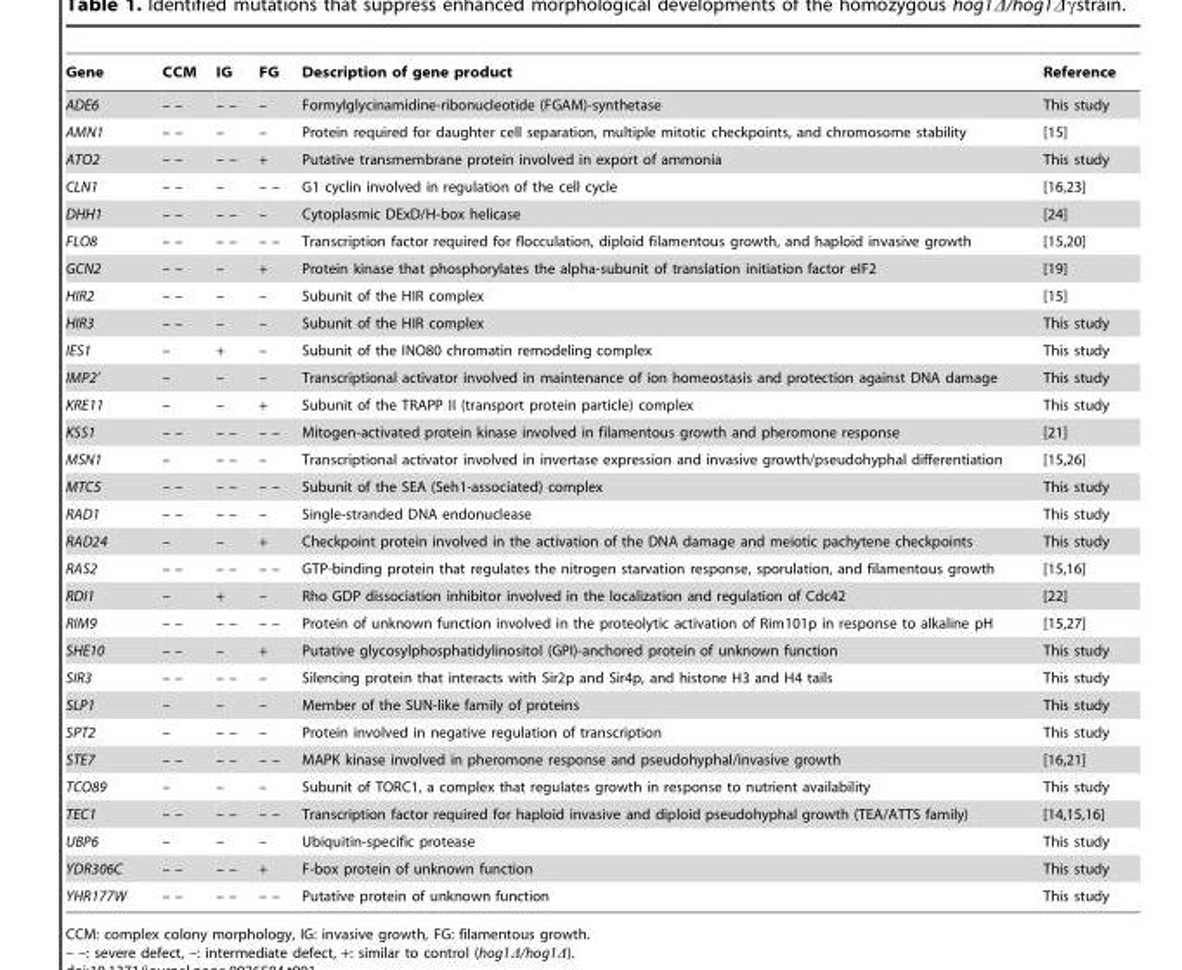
<table><thead><tr><td>Gene</td><td>CCM</td><td>IG</td><td>FG</td><td>Description of gene product</td><td>Reference</td></tr></thead><tbody><tr><td>ADE6</td><td>– –</td><td>– –</td><td>–</td><td>Formylglycinamidine-ribonucleotide (FGAM)-synthetase</td><td>This study</td></tr><tr><td>AMN1</td><td>– –</td><td>–</td><td>–</td><td>Protein required for daughter cell separation, multiple mitotic checkpoints, and chromosome stability</td><td>[15]</td></tr><tr><td>ATO2</td><td>– –</td><td>– –</td><td>+</td><td>Putative transmembrane protein involved in export of ammonia</td><td>This study</td></tr><tr><td>CLN1</td><td>– –</td><td>–</td><td>– –</td><td>G1 cyclin involved in regulation of the cell cycle</td><td>[16,23]</td></tr><tr><td>DHH1</td><td>– –</td><td>– –</td><td>–</td><td>Cytoplasmic DExD/H-box helicase</td><td>[24]</td></tr><tr><td>FLO8</td><td>– –</td><td>– –</td><td>– –</td><td>Transcription factor required for flocculation, diploid filamentous growth, and haploid invasive growth</td><td>[15,20]</td></tr><tr><td>GCN2</td><td>– –</td><td>–</td><td>+</td><td>Protein kinase that phosphorylates the alpha-subunit of translation initiation factor eIF2</td><td>[19]</td></tr><tr><td>HIR2</td><td>– –</td><td>–</td><td>–</td><td>Subunit of the HIR complex</td><td>[15]</td></tr><tr><td>HIR3</td><td>– –</td><td>–</td><td>–</td><td>Subunit of the HIR complex</td><td>This study</td></tr><tr><td>IES1</td><td>–</td><td>+</td><td>–</td><td>Subunit of the INO80 chromatin remodeling complex</td><td>This study</td></tr><tr><td>IMP2′</td><td>–</td><td>–</td><td>–</td><td>Transcriptional activator involved in maintenance of ion homeostasis and protection against DNA damage</td><td>This study</td></tr><tr><td>KRE11</td><td>–</td><td>–</td><td>+</td><td>Subunit of the TRAPP II (transport protein particle) complex</td><td>This study</td></tr><tr><td>KSS1</td><td>– –</td><td>– –</td><td>– –</td><td>Mitogen-activated protein kinase involved in filamentous growth and pheromone response</td><td>[21]</td></tr><tr><td>MSN1</td><td>–</td><td>– –</td><td>–</td><td>Transcriptional activator involved in invertase expression and invasive growth/pseudohyphal differentiation</td><td>[15,26]</td></tr><tr><td>MTC5</td><td>– –</td><td>– –</td><td>– –</td><td>Subunit of the SEA (Seh1-associated) complex</td><td>This study</td></tr><tr><td>RAD1</td><td>– –</td><td>– –</td><td>–</td><td>Single-stranded DNA endonuclease</td><td>This study</td></tr><tr><td>RAD24</td><td>–</td><td>–</td><td>+</td><td>Checkpoint protein involved in the activation of the DNA damage and meiotic pachytene checkpoints</td><td>This study</td></tr><tr><td>RAS2</td><td>– –</td><td>– –</td><td>– –</td><td>GTP-binding protein that regulates the nitrogen starvation response, sporulation, and filamentous growth</td><td>[15,16]</td></tr><tr><td>RDI1</td><td>–</td><td>+</td><td>–</td><td>Rho GDP dissociation inhibitor involved in the localization and regulation of Cdc42</td><td>[22]</td></tr><tr><td>RIM9</td><td>– –</td><td>– –</td><td>– –</td><td>Protein of unknown function involved in the proteolytic activation of Rim101p in response to alkaline pH</td><td>[15,27]</td></tr><tr><td>SHE10</td><td>– –</td><td>–</td><td>+</td><td>Putative glycosylphosphatidylinositol (GPI)-anchored protein of unknown function</td><td>This study</td></tr><tr><td>SIR3</td><td>– –</td><td>– –</td><td>–</td><td>Silencing protein that interacts with Sir2p and Sir4p, and histone H3 and H4 tails</td><td>This study</td></tr><tr><td>SLP1</td><td>–</td><td>–</td><td>–</td><td>Member of the SUN-like family of proteins</td><td>This study</td></tr><tr><td>SPT2</td><td>–</td><td>– –</td><td>–</td><td>Protein involved in negative regulation of transcription</td><td>This study</td></tr><tr><td>STE7</td><td>– –</td><td>– –</td><td>– –</td><td>MAPK kinase involved in pheromone response and pseudohyphal/invasive growth</td><td>[16,21]</td></tr><tr><td>TCO89</td><td>–</td><td>–</td><td>–</td><td>Subunit of TORC1, a complex that regulates growth in response to nutrient availability</td><td>This study</td></tr><tr><td>TEC1</td><td>– –</td><td>– –</td><td>– –</td><td>Transcription factor required for haploid invasive and diploid pseudohyphal growth (TEA/ATTS family)</td><td>[14,15,16]</td></tr><tr><td>UBP6</td><td>–</td><td>–</td><td>–</td><td>Ubiquitin-specific protease</td><td>This study</td></tr><tr><td>YDR306C</td><td>– –</td><td>– –</td><td>+</td><td>F-box protein of unknown function</td><td>This study</td></tr><tr><td>YHR177W</td><td>– –</td><td>– –</td><td>– –</td><td>Putative protein of unknown function</td><td>This study</td></tr></tbody></table>